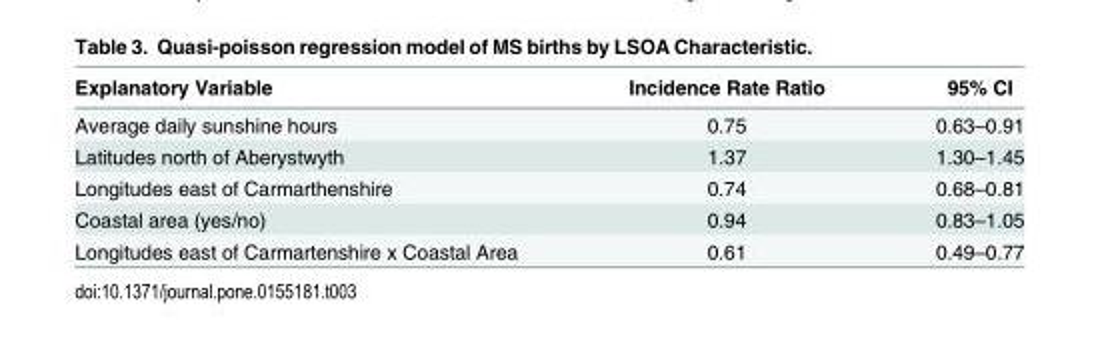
<table><thead><tr><td>Explanatory Variable</td><td>Incidence Rate Ratio</td><td>95% CI</td></tr></thead><tbody><tr><td>Average daily sunshine hours</td><td>0.75</td><td>0.63–0.91</td></tr><tr><td>Latitudes north of Aberystwyth</td><td>1.37</td><td>1.30–1.45</td></tr><tr><td>Longitudes east of Carmarthenshire</td><td>0.74</td><td>0.68–0.81</td></tr><tr><td>Coastal area (yes/no)</td><td>0.94</td><td>0.83–1.05</td></tr><tr><td>Longitudes east of Carmartenshire x Coastal Area</td><td>0.61</td><td>0.49–0.77</td></tr></tbody></table>